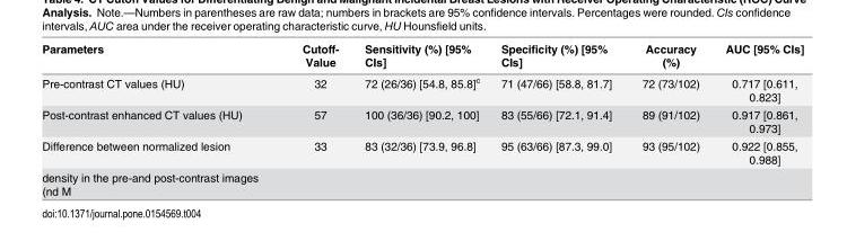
<table><thead><tr><td>Parameters</td><td>Cutoff- Value</td><td>Sensitivity (%) [95% CIs]</td><td>Specificity (%) [95% CIs]</td><td>Accuracy (%)</td><td>AUC [95% CIs]</td></tr></thead><tbody><tr><td>Pre-contrast CT values (HU)</td><td>32</td><td>72 (26/36) [54.8, 85.8]<sup>c</sup></td><td>71 (47/66) [58.8, 81.7]</td><td>72 (73/102)</td><td>0.717 [0.611, 0.823]</td></tr><tr><td>Post-contrast enhanced CT values (HU)</td><td>57</td><td>100 (36/36) [90.2, 100]</td><td>83 (55/66) [72.1, 91.4]</td><td>89 (91/102)</td><td>0.917 [0.861, 0.973]</td></tr><tr><td>Difference between normalized lesion</td><td>33</td><td>83 (32/36) [73.9, 96.8]</td><td>95 (63/66) [87.3, 99.0]</td><td>93 (95/102)</td><td>0.922 [0.855, 0.988]</td></tr><tr><td>density in the pre-and post-contrast images (nd M</td><td></td><td></td><td></td><td></td><td></td></tr></tbody></table>